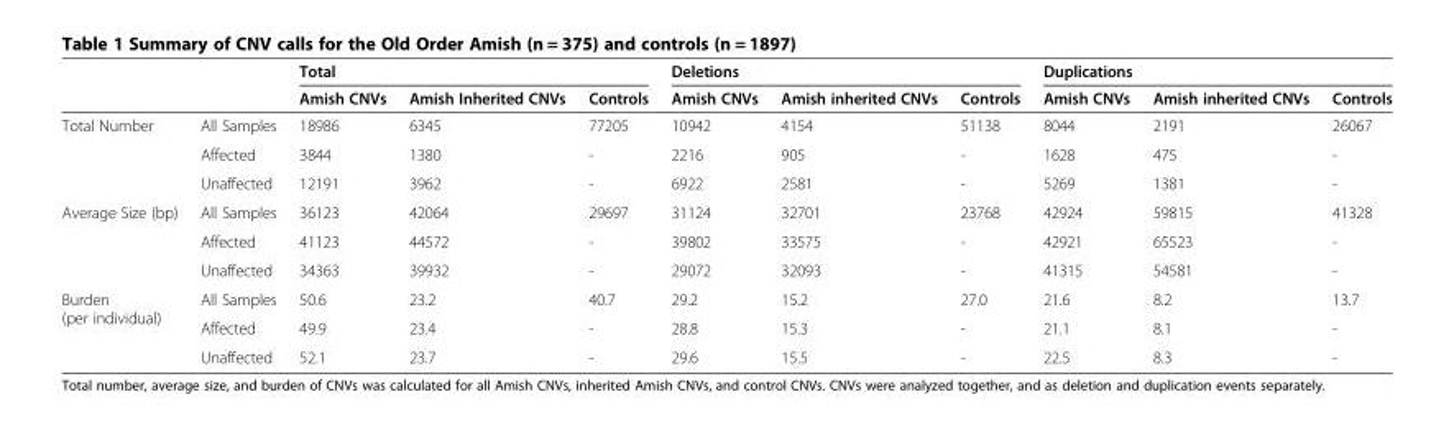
<table><thead><tr><td rowspan="2"></td><td rowspan="2"></td><td colspan="3">Total</td><td colspan="3">Deletions</td><td colspan="3">Duplications</td></tr><tr><td>Amish CNVs</td><td>Amish Inherited CNVs</td><td>Controls</td><td>Amish CNVs</td><td>Amish inherited CNVs</td><td>Controls</td><td>Amish CNVs</td><td>Amish inherited CNVs</td><td>Controls</td></tr></thead><tbody><tr><td rowspan="3">Total Number</td><td>All Samples</td><td>18986</td><td>6345</td><td>77205</td><td>10942</td><td>4154</td><td>51138</td><td>8044</td><td>2191</td><td>26067</td></tr><tr><td>Affected</td><td>3844</td><td>1380</td><td>-</td><td>2216</td><td>905</td><td>-</td><td>1628</td><td>475</td><td>-</td></tr><tr><td>Unaffected</td><td>12191</td><td>3962</td><td>-</td><td>6922</td><td>2581</td><td>-</td><td>5269</td><td>1381</td><td>-</td></tr><tr><td rowspan="3">Average Size (bp)</td><td>All Samples</td><td>36123</td><td>42064</td><td>29697</td><td>31124</td><td>32701</td><td>23768</td><td>42924</td><td>59815</td><td>41328</td></tr><tr><td>Affected</td><td>41123</td><td>44572</td><td>-</td><td>39802</td><td>33575</td><td>-</td><td>42921</td><td>65523</td><td>-</td></tr><tr><td>Unaffected</td><td>34363</td><td>39932</td><td>-</td><td>29072</td><td>32093</td><td>-</td><td>41315</td><td>54581</td><td>-</td></tr><tr><td rowspan="3">Burden (per individual)</td><td>All Samples</td><td>50.6</td><td>23.2</td><td>40.7</td><td>29.2</td><td>15.2</td><td>27.0</td><td>21.6</td><td>8.2</td><td>13.7</td></tr><tr><td>Affected</td><td>49.9</td><td>23.4</td><td>-</td><td>28.8</td><td>15.3</td><td>-</td><td>21.1</td><td>8.1</td><td>-</td></tr><tr><td>Unaffected</td><td>52.1</td><td>23.7</td><td>-</td><td>29.6</td><td>15.5</td><td>-</td><td>22.5</td><td>8.3</td><td>-</td></tr></tbody></table>